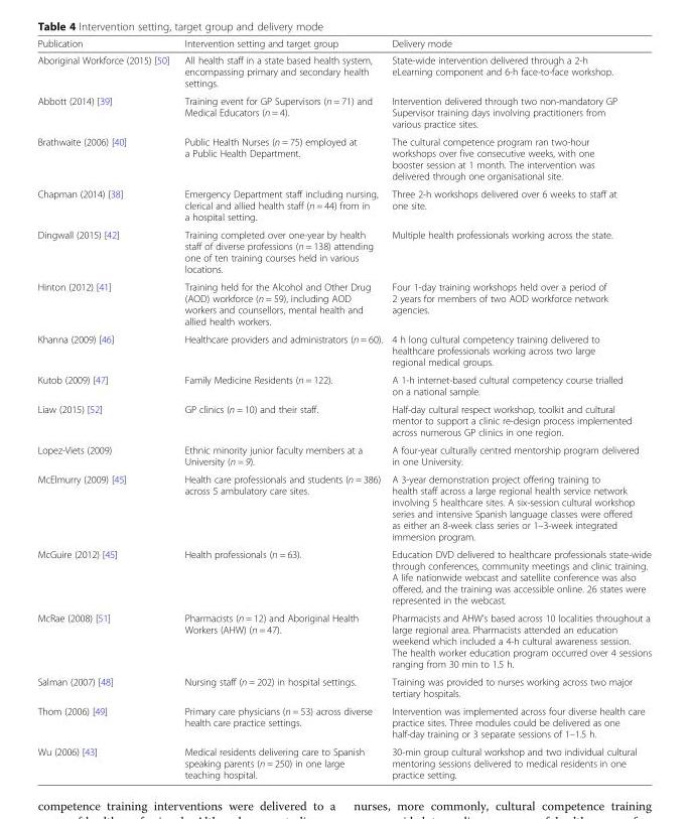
<table><thead><tr><td>Publication</td><td>Intervention setting and target group</td><td>Delivery mode</td></tr></thead><tbody><tr><td>Aboriginal Workforce (2015) [50]</td><td>All health staff in a state based health system, encompassing primary and secondary health settings.</td><td>State-wide intervention delivered through a 2-h eLearning component and 6-h face-to-face workshop.</td></tr><tr><td>Abbott (2014) [39]</td><td>Training event for GP Supervisors (n = 71) and Medical Educators (n = 4).</td><td>Intervention delivered through two non-mandatory GP Supervisor training days involving practitioners from various practice sites.</td></tr><tr><td>Brathwaite (2006) [40]</td><td>Public Health Nurses (n = 75) employed at a Public Health Department.</td><td>The cultural competence program ran two-hour workshops over five consecutive weeks, with one booster session at 1 month. The intervention was delivered through one organisational site.</td></tr><tr><td>Chapman (2014) [38]</td><td>Emergency Department staff including nursing, clerical and allied health staff (n = 44) from in a hospital setting.</td><td>Three 2-h workshops delivered over 6 weeks to staff at one site.</td></tr><tr><td>Dingwall (2015) [42]</td><td>Training completed over one-year by health staff of diverse professions (n = 138) attending one of ten training courses held in various locations.</td><td>Multiple health professionals working across the state.</td></tr><tr><td>Hinton (2012) [41]</td><td>Training held for the Alcohol and Other Drug (AOD) workforce (n = 59), including AOD workers and counsellors, mental health and allied health workers.</td><td>Four 1-day training workshops held over a period of 2 years for members of two AOD workforce network agencies.</td></tr><tr><td>Khanna (2009) [46]</td><td>Healthcare providers and administrators (n = 60).</td><td>4 h long cultural competency training delivered to healthcare professionals working across two large regional medical groups.</td></tr><tr><td>Kutob (2009) [47]</td><td>Family Medicine Residents (n = 122).</td><td>A 1-h internet-based cultural competency course trialled on a national sample.</td></tr><tr><td>Liaw (2015) [52]</td><td>GP clinics (n = 10) and their staff.</td><td>Half-day cultural respect workshop, toolkit and cultural mentor to support a clinic re-design process implemented across numerous GP clinics in one region.</td></tr><tr><td>Lopez-Viets (2009)</td><td>Ethnic minority junior faculty members at a University (n = 9).</td><td>A four-year culturally centred mentorship program delivered in one University.</td></tr><tr><td>McElmurry (2009) [45]</td><td>Health care professionals and students (n = 386) across 5 ambulatory care sites.</td><td>A 3-year demonstration project offering training to health staff across a large regional health service network involving 5 healthcare sites. A six-session cultural workshop series and intensive Spanish language classes were offered as either an 8-week class series or 1–3-week integrated immersion program.</td></tr><tr><td>McGuire (2012) [45]</td><td>Health professionals (n = 63).</td><td>Education DVD delivered to healthcare professionals state-wide through conferences, community meetings and clinic training. A life nationwide webcast and satellite conference was also offered, and the training was accessible online. 26 states were represented in the webcast.</td></tr><tr><td>McRae (2008) [51]</td><td>Pharmacists (n = 12) and Aboriginal Health Workers (AHW) (n = 47).</td><td>Pharmacists and AHW’s based across 10 localities throughout a large regional area. Pharmacists attended an education weekend which included a 4-h cultural awareness session. The health worker education program occurred over 4 sessions ranging from 30 min to 1.5 h.</td></tr><tr><td>Salman (2007) [48]</td><td>Nursing staff (n = 202) in hospital settings.</td><td>Training was provided to nurses working across two major tertiary hospitals.</td></tr><tr><td>Thom (2006) [49]</td><td>Primary care physicians (n = 53) across diverse health care practice settings.</td><td>Intervention was implemented across four diverse health care practice sites. Three modules could be delivered as one half-day training or 3 separate sessions of 1–1.5 h.</td></tr><tr><td>Wu (2006) [43]</td><td>Medical residents delivering care to Spanish speaking parents (n = 250) in one large teaching hospital.</td><td>30-min group cultural workshop and two individual cultural mentoring sessions delivered to medical residents in one practice setting.</td></tr></tbody></table>